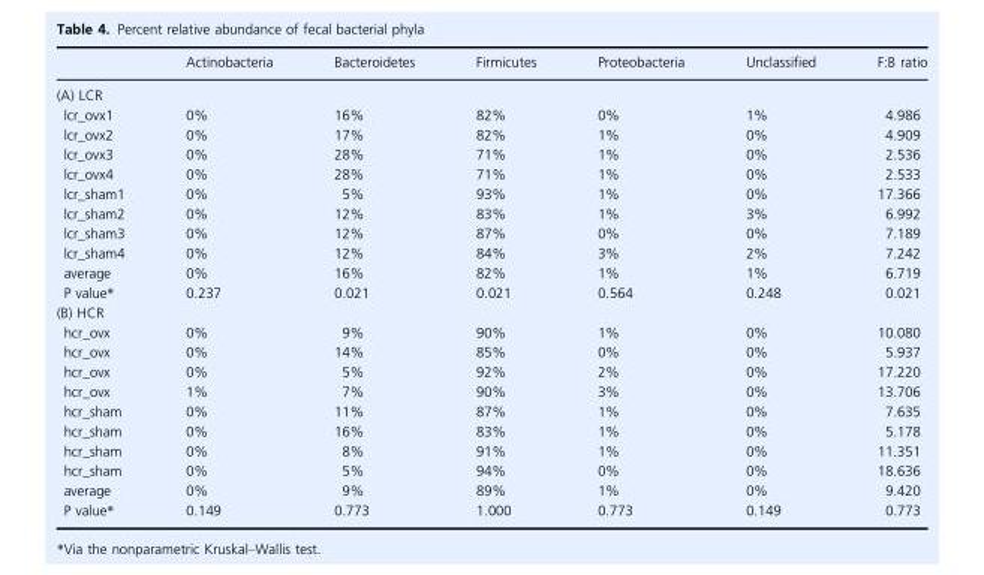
<table><thead><tr><td></td><td>Actinobacteria</td><td>Bacteroidetes</td><td>Firmicutes</td><td>Proteobacteria</td><td>Unclassified</td><td>F:B ratio</td></tr></thead><tbody><tr><td colspan="7">(A) LCR</td></tr><tr><td>lcr_ovx1</td><td>0%</td><td>16%</td><td>82%</td><td>0%</td><td>1%</td><td>4.986</td></tr><tr><td>lcr_ovx2</td><td>0%</td><td>17%</td><td>82%</td><td>1%</td><td>0%</td><td>4.909</td></tr><tr><td>lcr_ovx3</td><td>0%</td><td>28%</td><td>71%</td><td>1%</td><td>0%</td><td>2.536</td></tr><tr><td>lcr_ovx4</td><td>0%</td><td>28%</td><td>71%</td><td>1%</td><td>0%</td><td>2.533</td></tr><tr><td>lcr_sham1</td><td>0%</td><td>5%</td><td>93%</td><td>1%</td><td>0%</td><td>17.366</td></tr><tr><td>lcr_sham2</td><td>0%</td><td>12%</td><td>83%</td><td>1%</td><td>3%</td><td>6.992</td></tr><tr><td>lcr_sham3</td><td>0%</td><td>12%</td><td>87%</td><td>0%</td><td>0%</td><td>7.189</td></tr><tr><td>lcr_sham4</td><td>0%</td><td>12%</td><td>84%</td><td>3%</td><td>2%</td><td>7.242</td></tr><tr><td>average</td><td>0%</td><td>16%</td><td>82%</td><td>1%</td><td>1%</td><td>6.719</td></tr><tr><td>P value*</td><td>0.237</td><td>0.021</td><td>0.021</td><td>0.564</td><td>0.248</td><td>0.021</td></tr><tr><td colspan="7">(B) HCR</td></tr><tr><td>hcr_ovx</td><td>0%</td><td>9%</td><td>90%</td><td>1%</td><td>0%</td><td>10.080</td></tr><tr><td>hcr_ovx</td><td>0%</td><td>14%</td><td>85%</td><td>0%</td><td>0%</td><td>5.937</td></tr><tr><td>hcr_ovx</td><td>0%</td><td>5%</td><td>92%</td><td>2%</td><td>0%</td><td>17.220</td></tr><tr><td>hcr_ovx</td><td>1%</td><td>7%</td><td>90%</td><td>3%</td><td>0%</td><td>13.706</td></tr><tr><td>hcr_sham</td><td>0%</td><td>11%</td><td>87%</td><td>1%</td><td>0%</td><td>7.635</td></tr><tr><td>hcr_sham</td><td>0%</td><td>16%</td><td>83%</td><td>1%</td><td>0%</td><td>5.178</td></tr><tr><td>hcr_sham</td><td>0%</td><td>8%</td><td>91%</td><td>1%</td><td>0%</td><td>11.351</td></tr><tr><td>hcr_sham</td><td>0%</td><td>5%</td><td>94%</td><td>0%</td><td>0%</td><td>18.636</td></tr><tr><td>average</td><td>0%</td><td>9%</td><td>89%</td><td>1%</td><td>0%</td><td>9.420</td></tr><tr><td>P value*</td><td>0.149</td><td>0.773</td><td>1.000</td><td>0.773</td><td>0.149</td><td>0.773</td></tr></tbody></table>